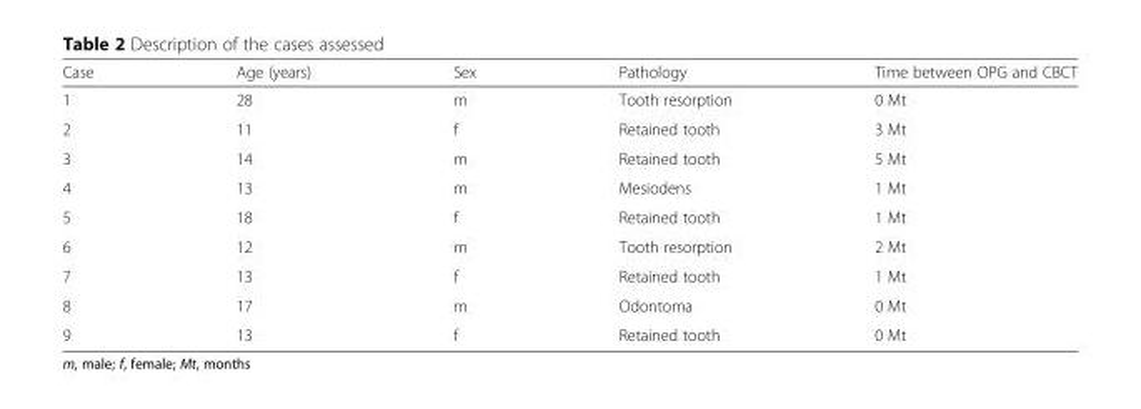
<table><thead><tr><td>Case</td><td>Age (years)</td><td>Sex</td><td>Pathology</td><td>Time between OPG and CBCT</td></tr></thead><tbody><tr><td>1</td><td>28</td><td>m</td><td>Tooth resorption</td><td>0 Mt</td></tr><tr><td>2</td><td>11</td><td>f</td><td>Retained tooth</td><td>3 Mt</td></tr><tr><td>3</td><td>14</td><td>m</td><td>Retained tooth</td><td>5 Mt</td></tr><tr><td>4</td><td>13</td><td>m</td><td>Mesiodens</td><td>1 Mt</td></tr><tr><td>5</td><td>18</td><td>f</td><td>Retained tooth</td><td>1 Mt</td></tr><tr><td>6</td><td>12</td><td>m</td><td>Tooth resorption</td><td>2 Mt</td></tr><tr><td>7</td><td>13</td><td>f</td><td>Retained tooth</td><td>1 Mt</td></tr><tr><td>8</td><td>17</td><td>m</td><td>Odontoma</td><td>0 Mt</td></tr><tr><td>9</td><td>13</td><td>f</td><td>Retained tooth</td><td>0 Mt</td></tr></tbody></table>